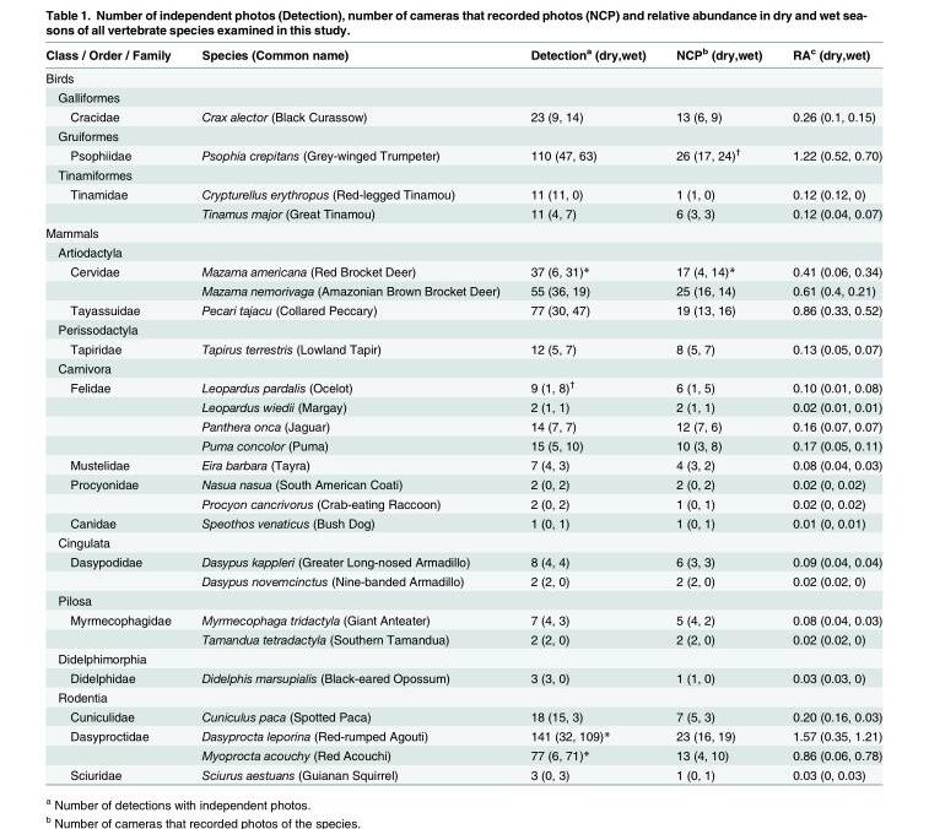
<table><thead><tr><td>Class / Order / Family</td><td>Species (Common name)</td><td>Detection<sup>a</sup> (dry,wet)</td><td>NCP<sup>b</sup> (dry,wet)</td><td>RA<sup>c</sup> (dry,wet)</td></tr></thead><tbody><tr><td colspan="5">Birds</td></tr><tr><td colspan="5">Galliformes</td></tr><tr><td>Cracidae</td><td>Crax alector (Black Curassow)</td><td>23 (9, 14)</td><td>13 (6, 9)</td><td>0.26 (0.1, 0.15)</td></tr><tr><td colspan="5">Gruiformes</td></tr><tr><td>Psophiidae</td><td>Psophia crepitans (Grey-winged Trumpeter)</td><td>110 (47, 63)</td><td>26 (17, 24)<sup>†</sup></td><td>1.22 (0.52, 0.70)</td></tr><tr><td colspan="5">Tinamiformes</td></tr><tr><td rowspan="2">Tinamidae</td><td>Crypturellus erythropus (Red-legged Tinamou)</td><td>11 (11, 0)</td><td>1 (1, 0)</td><td>0.12 (0.12, 0)</td></tr><tr><td>Tinamus major (Great Tinamou)</td><td>11 (4, 7)</td><td>6 (3, 3)</td><td>0.12 (0.04, 0.07)</td></tr><tr><td colspan="5">Mammals</td></tr><tr><td colspan="5">Artiodactyla</td></tr><tr><td rowspan="2">Cervidae</td><td>Mazama americana (Red Brocket Deer)</td><td>37 (6, 31)*</td><td>17 (4, 14)*</td><td>0.41 (0.06, 0.34)</td></tr><tr><td>Mazama nemorivaga (Amazonian Brown Brocket Deer)</td><td>55 (36, 19)</td><td>25 (16, 14)</td><td>0.61 (0.4, 0.21)</td></tr><tr><td>Tayassuidae</td><td>Pecari tajacu (Collared Peccary)</td><td>77 (30, 47)</td><td>19 (13, 16)</td><td>0.86 (0.33, 0.52)</td></tr><tr><td colspan="5">Perissodactyla</td></tr><tr><td>Tapiridae</td><td>Tapirus terrestris (Lowland Tapir)</td><td>12 (5, 7)</td><td>8 (5, 7)</td><td>0.13 (0.05, 0.07)</td></tr><tr><td colspan="5">Carnivora</td></tr><tr><td rowspan="4">Felidae</td><td>Leopardus pardalis (Ocelot)</td><td>9 (1, 8)<sup>†</sup></td><td>6 (1, 5)</td><td>0.10 (0.01, 0.08)</td></tr><tr><td>Leopardus wiedii (Margay)</td><td>2 (1, 1)</td><td>2 (1, 1)</td><td>0.02 (0.01, 0.01)</td></tr><tr><td>Panthera onca (Jaguar)</td><td>14 (7, 7)</td><td>12 (7, 6)</td><td>0.16 (0.07, 0.07)</td></tr><tr><td>Puma concolor (Puma)</td><td>15 (5, 10)</td><td>10 (3, 8)</td><td>0.17 (0.05, 0.11)</td></tr><tr><td>Mustelidae</td><td>Eira barbara (Tayra)</td><td>7 (4, 3)</td><td>4 (3, 2)</td><td>0.08 (0.04, 0.03)</td></tr><tr><td rowspan="2">Procyonidae</td><td>Nasua nasua (South American Coati)</td><td>2 (0, 2)</td><td>2 (0, 2)</td><td>0.02 (0, 0.02)</td></tr><tr><td>Procyon cancrivorus (Crab-eating Raccoon)</td><td>2 (0, 2)</td><td>1 (0, 1)</td><td>0.02 (0, 0.02)</td></tr><tr><td>Canidae</td><td>Speothos venaticus (Bush Dog)</td><td>1 (0, 1)</td><td>1 (0, 1)</td><td>0.01 (0, 0.01)</td></tr><tr><td colspan="5">Cingulata</td></tr><tr><td rowspan="2">Dasypodidae</td><td>Dasypus kappleri (Greater Long-nosed Armadillo)</td><td>8 (4, 4)</td><td>6 (3, 3)</td><td>0.09 (0.04, 0.04)</td></tr><tr><td>Dasypus novemcinctus (Nine-banded Armadillo)</td><td>2 (2, 0)</td><td>2 (2, 0)</td><td>0.02 (0.02, 0)</td></tr><tr><td colspan="5">Pilosa</td></tr><tr><td rowspan="2">Myrmecophagidae</td><td>Myrmecophaga tridactyla (Giant Anteater)</td><td>7 (4, 3)</td><td>5 (4, 2)</td><td>0.08 (0.04, 0.03)</td></tr><tr><td>Tamandua tetradactyla (Southern Tamandua)</td><td>2 (2, 0)</td><td>2 (2, 0)</td><td>0.02 (0.02, 0)</td></tr><tr><td colspan="5">Didelphimorphia</td></tr><tr><td>Didelphidae</td><td>Didelphis marsupialis (Black-eared Opossum)</td><td>3 (3, 0)</td><td>1 (1, 0)</td><td>0.03 (0.03, 0)</td></tr><tr><td colspan="5">Rodentia</td></tr><tr><td>Cuniculidae</td><td>Cuniculus paca (Spotted Paca)</td><td>18 (15, 3)</td><td>7 (5, 3)</td><td>0.20 (0.16, 0.03)</td></tr><tr><td rowspan="2">Dasyproctidae</td><td>Dasyprocta leporina (Red-rumped Agouti)</td><td>141 (32, 109)*</td><td>23 (16, 19)</td><td>1.57 (0.35, 1.21)</td></tr><tr><td>Myoprocta acouchy (Red Acouchi)</td><td>77 (6, 71)*</td><td>13 (4, 10)</td><td>0.86 (0.06, 0.78)</td></tr><tr><td>Sciuridae</td><td>Sciurus aestuans (Guianan Squirrel)</td><td>3 (0, 3)</td><td>1 (0, 1)</td><td>0.03 (0, 0.03)</td></tr></tbody></table>